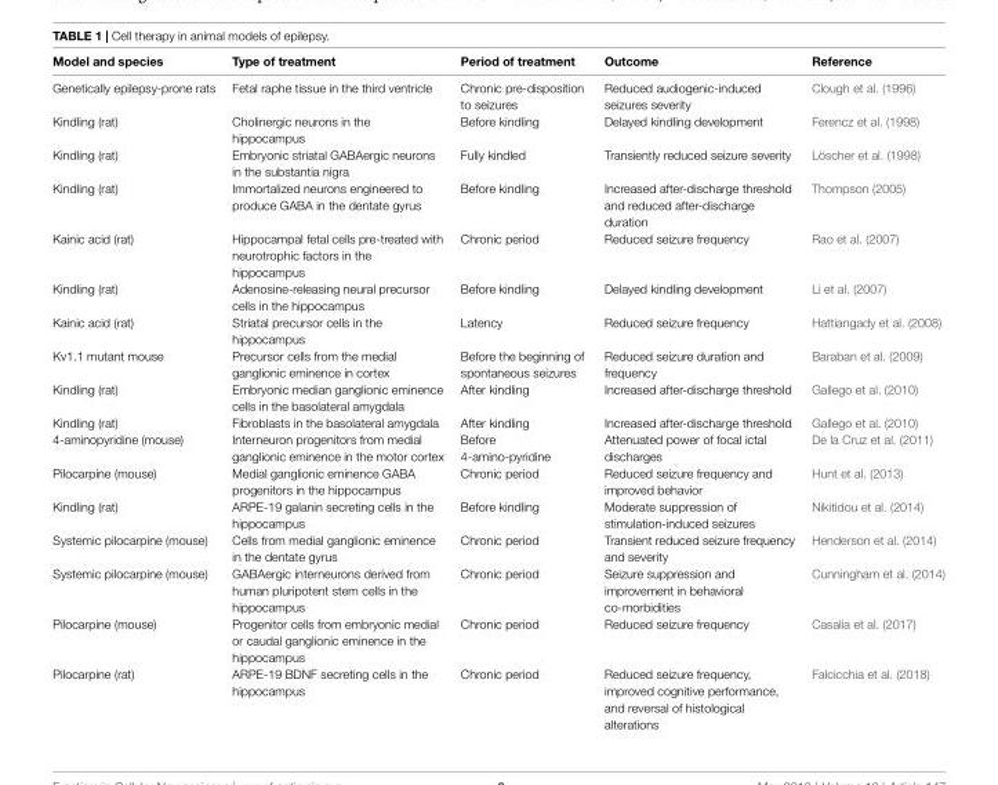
<table><thead><tr><td>Model and species</td><td>Type of treatment</td><td>Period of treatment</td><td>Outcome</td><td>Reference</td></tr></thead><tbody><tr><td>Genetically epilepsy-prone rats</td><td>Fetal raphe tissue in the third ventricle</td><td>Chronic pre-disposition to seizures</td><td>Reduced audiogenic-induced seizures severity</td><td>Clough et al. (1996)</td></tr><tr><td>Kindling (rat)</td><td>Cholinergic neurons in the hippocampus</td><td>Before kindling</td><td>Delayed kindling development</td><td>Ferencz et al. (1998)</td></tr><tr><td>Kindling (rat)</td><td>Embryonic striatal GABAergic neurons in the substantia nigra</td><td>Fully kindled</td><td>Transiently reduced seizure severity</td><td>Löscher et al. (1998)</td></tr><tr><td>Kindling (rat)</td><td>Immortalized neurons engineered to produce GABA in the dentate gyrus</td><td>Before kindling</td><td>Increased after-discharge threshold and reduced after-discharge duration</td><td>Thompson (2005)</td></tr><tr><td>Kainic acid (rat)</td><td>Hippocampal fetal cells pre-treated with neurotrophic factors in the hippocampus</td><td>Chronic period</td><td>Reduced seizure frequency</td><td>Rao et al. (2007)</td></tr><tr><td>Kindling (rat)</td><td>Adenosine-releasing neural precursor cells in the hippocampus</td><td>Before kindling</td><td>Delayed kindling development</td><td>Li et al. (2007)</td></tr><tr><td>Kainic acid (rat)</td><td>Striatal precursor cells in the hippocampus</td><td>Latency</td><td>Reduced seizure frequency</td><td>Hattiangady et al. (2008)</td></tr><tr><td>Kv1.1 mutant mouse</td><td>Precursor cells from the medial ganglionic eminence in cortex</td><td>Before the beginning of spontaneous seizures</td><td>Reduced seizure duration and frequency</td><td>Baraban et al. (2009)</td></tr><tr><td>Kindling (rat)</td><td>Embryonic median ganglionic eminence cells in the basolateral amygdala</td><td>After kindling</td><td>Increased after-discharge threshold</td><td>Gallego et al. (2010)</td></tr><tr><td>Kindling (rat)</td><td>Fibroblasts in the basolateral amygdala</td><td>After kindling</td><td>Increased after-discharge threshold</td><td>Gallego et al. (2010)</td></tr><tr><td>4-aminopyridine (mouse)</td><td>Interneuron progenitors from medial ganglionic eminence in the motor cortex</td><td>Before 4-amino-pyridine</td><td>Attenuated power of focal ictal discharges</td><td>De la Cruz et al. (2011)</td></tr><tr><td>Pilocarpine (mouse)</td><td>Medial ganglionic eminence GABA progenitors in the hippocampus</td><td>Chronic period</td><td>Reduced seizure frequency and improved behavior</td><td>Hunt et al. (2013)</td></tr><tr><td>Kindling (rat)</td><td>ARPE-19 galanin secreting cells in the hippocampus</td><td>Before kindling</td><td>Moderate suppression of stimulation-induced seizures</td><td>Nikitidou et al. (2014)</td></tr><tr><td>Systemic pilocarpine (mouse)</td><td>Cells from medial ganglionic eminence in the dentate gyrus</td><td>Chronic period</td><td>Transient reduced seizure frequency and severity</td><td>Henderson et al. (2014)</td></tr><tr><td>Systemic pilocarpine (mouse)</td><td>GABAergic interneurons derived from human pluripotent stem cells in the hippocampus</td><td>Chronic period</td><td>Seizure suppression and improvement in behavioral co-morbidities</td><td>Cunningham et al. (2014)</td></tr><tr><td>Pilocarpine (mouse)</td><td>Progenitor cells from embryonic medial or caudal ganglionic eminence in the hippocampus</td><td>Chronic period</td><td>Reduced seizure frequency</td><td>Casalia et al. (2017)</td></tr><tr><td>Pilocarpine (rat)</td><td>ARPE-19 BDNF secreting cells in the hippocampus</td><td>Chronic period</td><td>Reduced seizure frequency, improved cognitive performance, and reversal of histological alterations</td><td>Falcicchia et al. (2018)</td></tr></tbody></table>